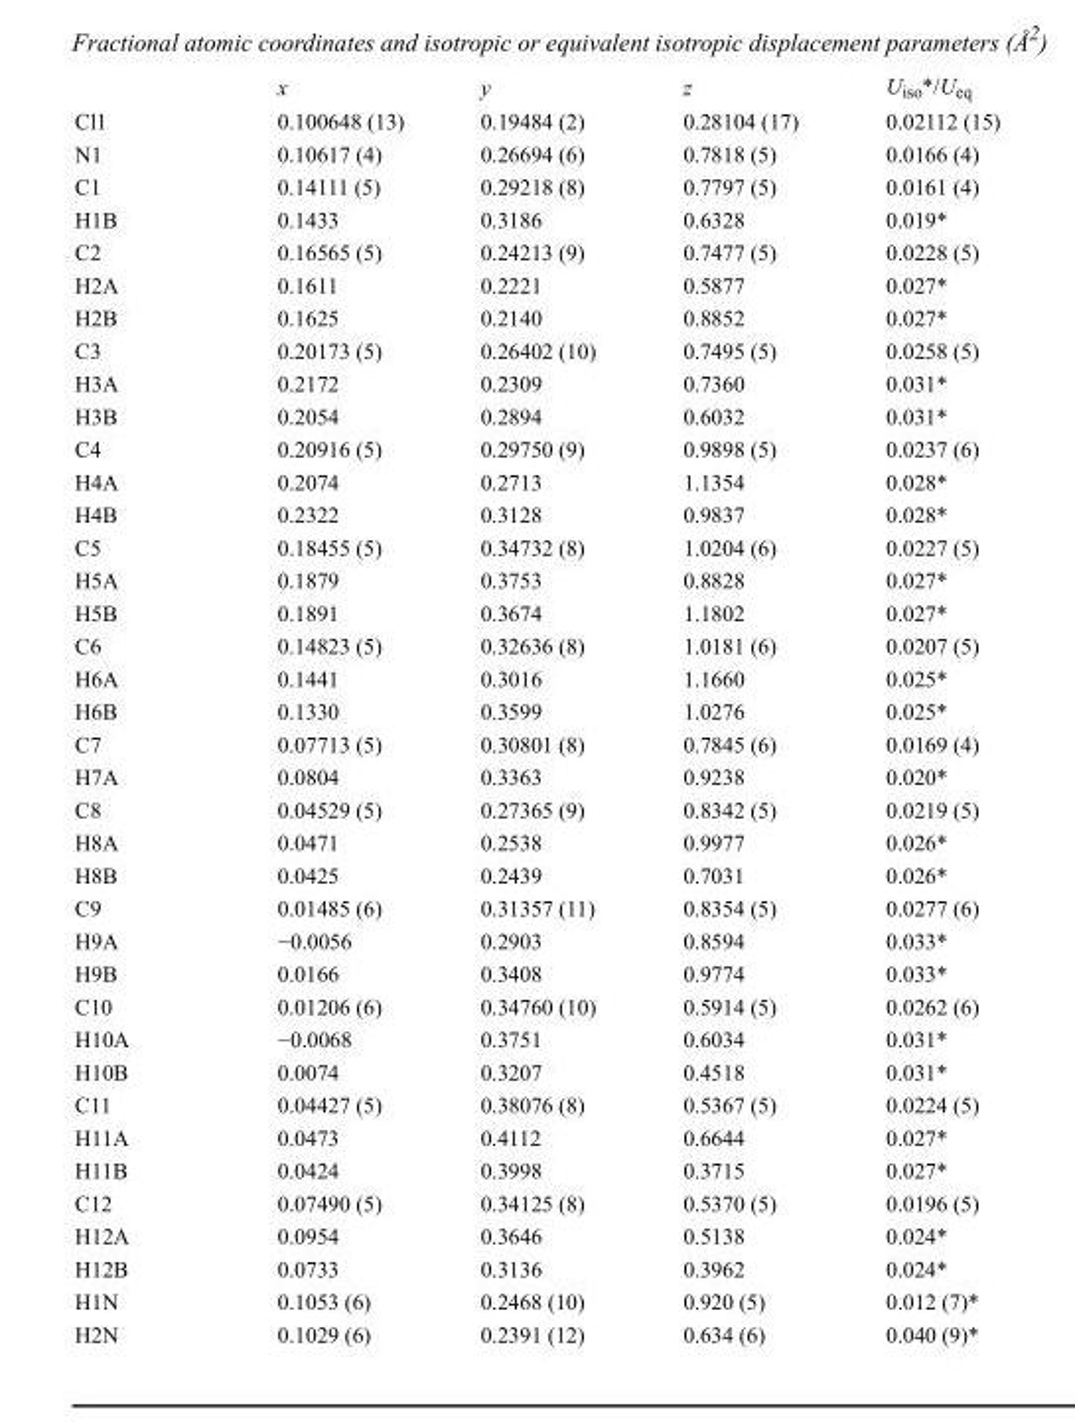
<table><thead><tr><td></td><td>x</td><td>y</td><td>z</td><td>U<sub>iso</sub>*/U<sub>eq</sub></td></tr></thead><tbody><tr><td>Cl1</td><td>0.100648 (13)</td><td>0.19484 (2)</td><td>0.28104 (17)</td><td>0.02112 (15)</td></tr><tr><td>N1</td><td>0.10617 (4)</td><td>0.26694 (6)</td><td>0.7818 (5)</td><td>0.0166 (4)</td></tr><tr><td>C1</td><td>0.14111 (5)</td><td>0.29218 (8)</td><td>0.7797 (5)</td><td>0.0161 (4)</td></tr><tr><td>H1B</td><td>0.1433</td><td>0.3186</td><td>0.6328</td><td>0.019*</td></tr><tr><td>C2</td><td>0.16565 (5)</td><td>0.24213 (9)</td><td>0.7477 (5)</td><td>0.0228 (5)</td></tr><tr><td>H2A</td><td>0.1611</td><td>0.2221</td><td>0.5877</td><td>0.027*</td></tr><tr><td>H2B</td><td>0.1625</td><td>0.2140</td><td>0.8852</td><td>0.027*</td></tr><tr><td>C3</td><td>0.20173 (5)</td><td>0.26402 (10)</td><td>0.7495 (5)</td><td>0.0258 (5)</td></tr><tr><td>H3A</td><td>0.2172</td><td>0.2309</td><td>0.7360</td><td>0.031*</td></tr><tr><td>H3B</td><td>0.2054</td><td>0.2894</td><td>0.6032</td><td>0.031*</td></tr><tr><td>C4</td><td>0.20916 (5)</td><td>0.29750 (9)</td><td>0.9898 (5)</td><td>0.0237 (6)</td></tr><tr><td>H4A</td><td>0.2074</td><td>0.2713</td><td>1.1354</td><td>0.028*</td></tr><tr><td>H4B</td><td>0.2322</td><td>0.3128</td><td>0.9837</td><td>0.028*</td></tr><tr><td>C5</td><td>0.18455 (5)</td><td>0.34732 (8)</td><td>1.0204 (6)</td><td>0.0227 (5)</td></tr><tr><td>H5A</td><td>0.1879</td><td>0.3753</td><td>0.8828</td><td>0.027*</td></tr><tr><td>H5B</td><td>0.1891</td><td>0.3674</td><td>1.1802</td><td>0.027*</td></tr><tr><td>C6</td><td>0.14823 (5)</td><td>0.32636 (8)</td><td>1.0181 (6)</td><td>0.0207 (5)</td></tr><tr><td>H6A</td><td>0.1441</td><td>0.3016</td><td>1.1660</td><td>0.025*</td></tr><tr><td>H6B</td><td>0.1330</td><td>0.3599</td><td>1.0276</td><td>0.025*</td></tr><tr><td>C7</td><td>0.07713 (5)</td><td>0.30801 (8)</td><td>0.7845 (6)</td><td>0.0169 (4)</td></tr><tr><td>H7A</td><td>0.0804</td><td>0.3363</td><td>0.9238</td><td>0.020*</td></tr><tr><td>C8</td><td>0.04529 (5)</td><td>0.27365 (9)</td><td>0.8342 (5)</td><td>0.0219 (5)</td></tr><tr><td>H8A</td><td>0.0471</td><td>0.2538</td><td>0.9977</td><td>0.026*</td></tr><tr><td>H8B</td><td>0.0425</td><td>0.2439</td><td>0.7031</td><td>0.026*</td></tr><tr><td>C9</td><td>0.01485 (6)</td><td>0.31357 (11)</td><td>0.8354 (5)</td><td>0.0277 (6)</td></tr><tr><td>H9A</td><td>−0.0056</td><td>0.2903</td><td>0.8594</td><td>0.033*</td></tr><tr><td>H9B</td><td>0.0166</td><td>0.3408</td><td>0.9774</td><td>0.033*</td></tr><tr><td>C10</td><td>0.01206 (6)</td><td>0.34760 (10)</td><td>0.5914 (5)</td><td>0.0262 (6)</td></tr><tr><td>H10A</td><td>−0.0068</td><td>0.3751</td><td>0.6034</td><td>0.031*</td></tr><tr><td>H10B</td><td>0.0074</td><td>0.3207</td><td>0.4518</td><td>0.031*</td></tr><tr><td>C11</td><td>0.04427 (5)</td><td>0.38076 (8)</td><td>0.5367 (5)</td><td>0.0224 (5)</td></tr><tr><td>H11A</td><td>0.0473</td><td>0.4112</td><td>0.6644</td><td>0.027*</td></tr><tr><td>H11B</td><td>0.0424</td><td>0.3998</td><td>0.3715</td><td>0.027*</td></tr><tr><td>C12</td><td>0.07490 (5)</td><td>0.34125 (8)</td><td>0.5370 (5)</td><td>0.0196 (5)</td></tr><tr><td>H12A</td><td>0.0954</td><td>0.3646</td><td>0.5138</td><td>0.024*</td></tr><tr><td>H12B</td><td>0.0733</td><td>0.3136</td><td>0.3962</td><td>0.024*</td></tr><tr><td>H1N</td><td>0.1053 (6)</td><td>0.2468 (10)</td><td>0.920 (5)</td><td>0.012 (7)*</td></tr><tr><td>H2N</td><td>0.1029 (6)</td><td>0.2391 (12)</td><td>0.634 (6)</td><td>0.040 (9)*</td></tr></tbody></table>